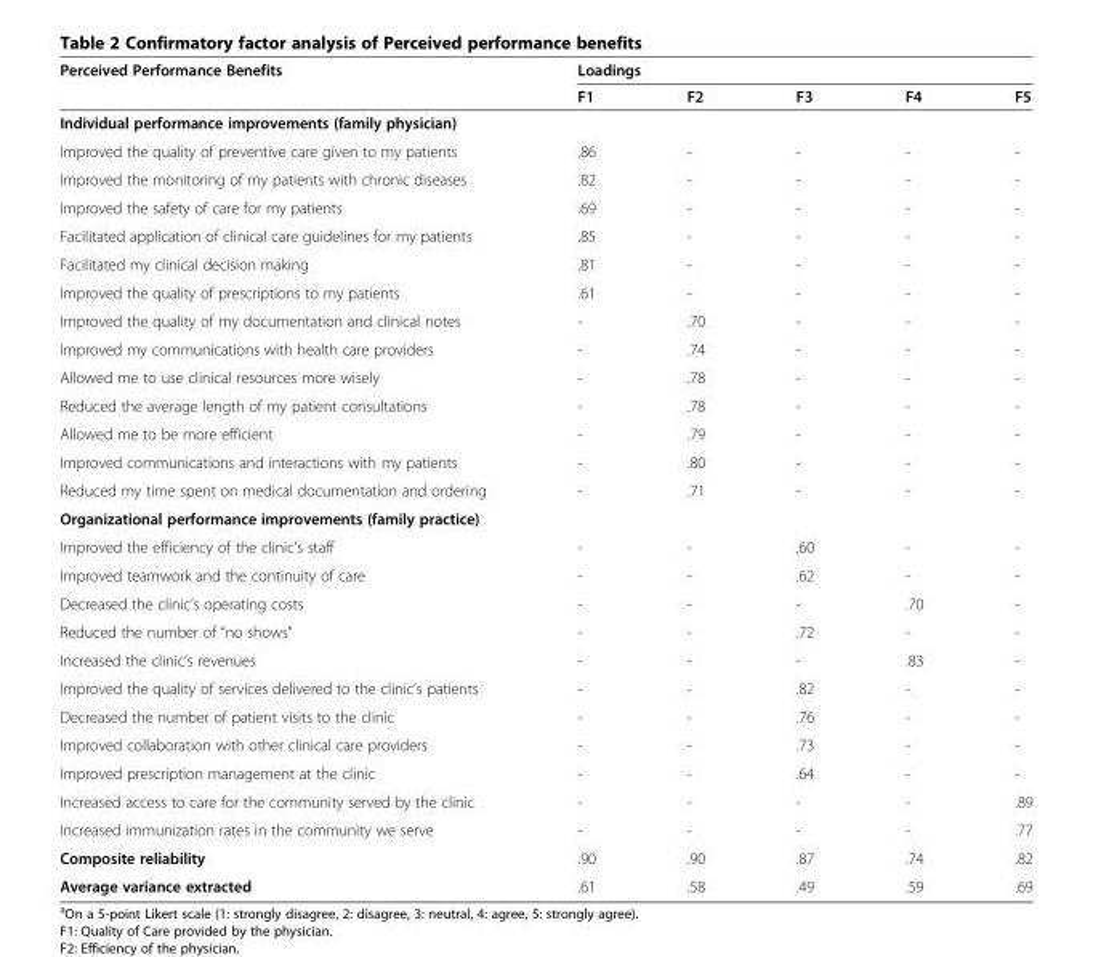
<table><thead><tr><td rowspan="2">Perceived Performance Benefits</td><td colspan="5">Loadings</td></tr><tr><td>F1</td><td>F2</td><td>F3</td><td>F4</td><td>F5</td></tr></thead><tbody><tr><td colspan="6">Individual performance improvements (family physician)</td></tr><tr><td>Improved the quality of preventive care given to my patients</td><td>.86</td><td>-</td><td>-</td><td>-</td><td>-</td></tr><tr><td>Improved the monitoring of my patients with chronic diseases</td><td>.82</td><td>-</td><td>-</td><td>-</td><td>-</td></tr><tr><td>Improved the safety of care for my patients</td><td>.69</td><td>-</td><td>-</td><td>-</td><td>-</td></tr><tr><td>Facilitated application of clinical care guidelines for my patients</td><td>.85</td><td>-</td><td>-</td><td>-</td><td>-</td></tr><tr><td>Facilitated my clinical decision making</td><td>.81</td><td>-</td><td>-</td><td>-</td><td>-</td></tr><tr><td>Improved the quality of prescriptions to my patients</td><td>.61</td><td>-</td><td>-</td><td>-</td><td>-</td></tr><tr><td>Improved the quality of my documentation and clinical notes</td><td>-</td><td>.70</td><td>-</td><td>-</td><td>-</td></tr><tr><td>Improved my communications with health care providers</td><td>-</td><td>.74</td><td>-</td><td>-</td><td>-</td></tr><tr><td>Allowed me to use clinical resources more wisely</td><td>-</td><td>.78</td><td>-</td><td>-</td><td>-</td></tr><tr><td>Reduced the average length of my patient consultations</td><td>-</td><td>.78</td><td>-</td><td>-</td><td>-</td></tr><tr><td>Allowed me to be more efficient</td><td>-</td><td>.79</td><td>-</td><td>-</td><td>-</td></tr><tr><td>Improved communications and interactions with my patients</td><td>-</td><td>.80</td><td>-</td><td>-</td><td>-</td></tr><tr><td>Reduced my time spent on medical documentation and ordering</td><td>-</td><td>.71</td><td>-</td><td>-</td><td>-</td></tr><tr><td colspan="6">Organizational performance improvements (family practice)</td></tr><tr><td>Improved the efficiency of the clinic’s staff</td><td>-</td><td>-</td><td>.60</td><td>-</td><td>-</td></tr><tr><td>Improved teamwork and the continuity of care</td><td>-</td><td>-</td><td>.62</td><td>-</td><td>-</td></tr><tr><td>Decreased the clinic’s operating costs</td><td>-</td><td>-</td><td>-</td><td>.70</td><td>-</td></tr><tr><td>Reduced the number of “no shows”</td><td>-</td><td>-</td><td>.72</td><td>-</td><td>-</td></tr><tr><td>Increased the clinic’s revenues</td><td>-</td><td>-</td><td>-</td><td>.83</td><td>-</td></tr><tr><td>Improved the quality of services delivered to the clinic’s patients</td><td>-</td><td>-</td><td>.82</td><td>-</td><td>-</td></tr><tr><td>Decreased the number of patient visits to the clinic</td><td>-</td><td>-</td><td>.76</td><td>-</td><td>-</td></tr><tr><td>Improved collaboration with other clinical care providers</td><td>-</td><td>-</td><td>.73</td><td>-</td><td>-</td></tr><tr><td>Improved prescription management at the clinic</td><td>-</td><td>-</td><td>.64</td><td>-</td><td>-</td></tr><tr><td>Increased access to care for the community served by the clinic</td><td>-</td><td>-</td><td>-</td><td>-</td><td>.89</td></tr><tr><td>Increased immunization rates in the community we serve</td><td>-</td><td>-</td><td>-</td><td>-</td><td>.77</td></tr><tr><td>Composite reliability</td><td>.90</td><td>.90</td><td>.87</td><td>.74</td><td>.82</td></tr><tr><td>Average variance extracted</td><td>.61</td><td>.58</td><td>.49</td><td>.59</td><td>.69</td></tr></tbody></table>